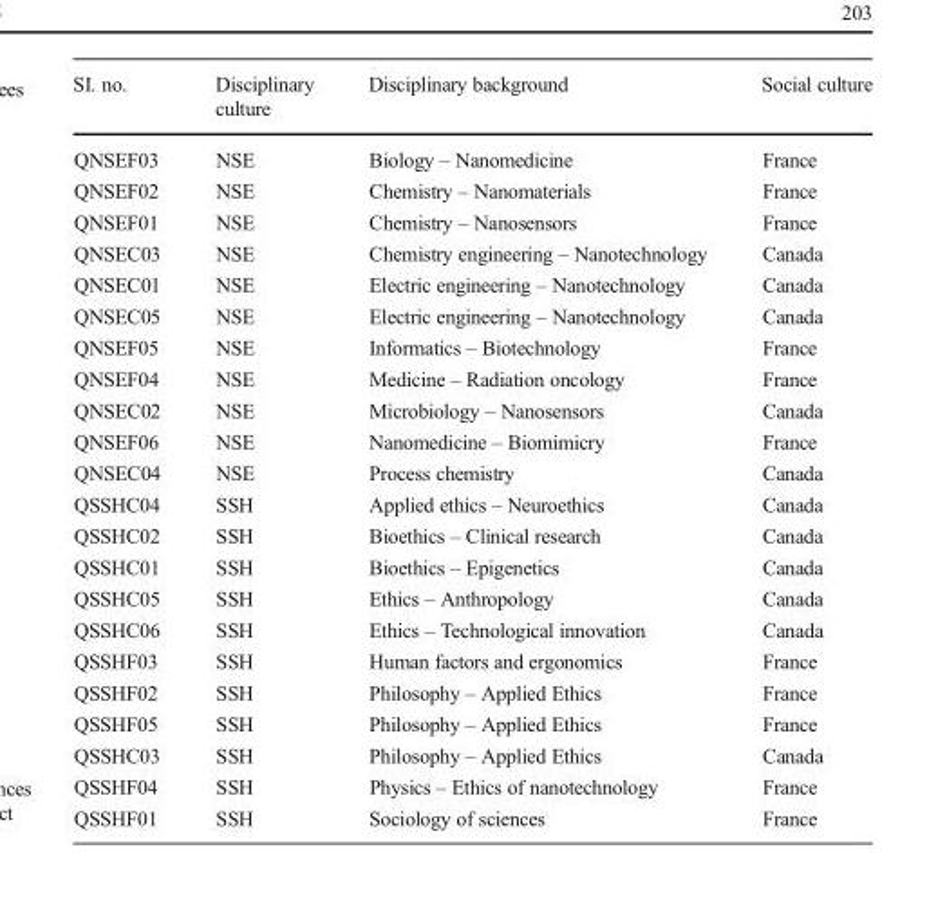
<table><thead><tr><td>SI. no.</td><td>Disciplinary culture</td><td>Disciplinary background</td><td>Social culture</td></tr></thead><tbody><tr><td>QNSEF03</td><td>NSE</td><td>Biology – Nanomedicine</td><td>France</td></tr><tr><td>QNSEF02</td><td>NSE</td><td>Chemistry – Nanomaterials</td><td>France</td></tr><tr><td>QNSEF01</td><td>NSE</td><td>Chemistry – Nanosensors</td><td>France</td></tr><tr><td>QNSEC03</td><td>NSE</td><td>Chemistry engineering – Nanotechnology</td><td>Canada</td></tr><tr><td>QNSEC01</td><td>NSE</td><td>Electric engineering – Nanotechnology</td><td>Canada</td></tr><tr><td>QNSEC05</td><td>NSE</td><td>Electric engineering – Nanotechnology</td><td>Canada</td></tr><tr><td>QNSEF05</td><td>NSE</td><td>Informatics – Biotechnology</td><td>France</td></tr><tr><td>QNSEF04</td><td>NSE</td><td>Medicine – Radiation oncology</td><td>France</td></tr><tr><td>QNSEC02</td><td>NSE</td><td>Microbiology – Nanosensors</td><td>Canada</td></tr><tr><td>QNSEF06</td><td>NSE</td><td>Nanomedicine – Biomimicry</td><td>France</td></tr><tr><td>QNSEC04</td><td>NSE</td><td>Process chemistry</td><td>Canada</td></tr><tr><td>QSSHC04</td><td>SSH</td><td>Applied ethics – Neuroethics</td><td>Canada</td></tr><tr><td>QSSHC02</td><td>SSH</td><td>Bioethics – Clinical research</td><td>Canada</td></tr><tr><td>QSSHC01</td><td>SSH</td><td>Bioethics – Epigenetics</td><td>Canada</td></tr><tr><td>QSSHC05</td><td>SSH</td><td>Ethics – Anthropology</td><td>Canada</td></tr><tr><td>QSSHC06</td><td>SSH</td><td>Ethics – Technological innovation</td><td>Canada</td></tr><tr><td>QSSHF03</td><td>SSH</td><td>Human factors and ergonomics</td><td>France</td></tr><tr><td>QSSHF02</td><td>SSH</td><td>Philosophy – Applied Ethics</td><td>France</td></tr><tr><td>QSSHF05</td><td>SSH</td><td>Philosophy – Applied Ethics</td><td>France</td></tr><tr><td>QSSHC03</td><td>SSH</td><td>Philosophy – Applied Ethics</td><td>Canada</td></tr><tr><td>QSSHF04</td><td>SSH</td><td>Physics – Ethics of nanotechnology</td><td>France</td></tr><tr><td>QSSHF01</td><td>SSH</td><td>Sociology of sciences</td><td>France</td></tr></tbody></table>